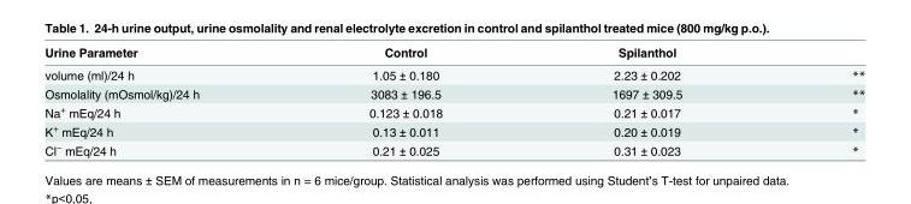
<table><thead><tr><td>Urine Parameter</td><td>Control</td><td>Spilanthol</td><td></td></tr></thead><tbody><tr><td>volume (ml)/24 h</td><td>1.05 ± 0.180</td><td>2.23 ± 0.202</td><td>**</td></tr><tr><td>Osmolality (mOsmol/kg)/24 h</td><td>3083 ± 196.5</td><td>1697 ± 309.5</td><td>**</td></tr><tr><td>Na<sup>+</sup> mEq/24 h</td><td>0.123 ± 0.018</td><td>0.21 ± 0.017</td><td>*</td></tr><tr><td>K<sup>+</sup> mEq/24 h</td><td>0.13 ± 0.011</td><td>0.20 ± 0.019</td><td>*</td></tr><tr><td>Cl<sup>−</sup> mEq/24 h</td><td>0.21 ± 0.025</td><td>0.31 ± 0.023</td><td>*</td></tr></tbody></table>